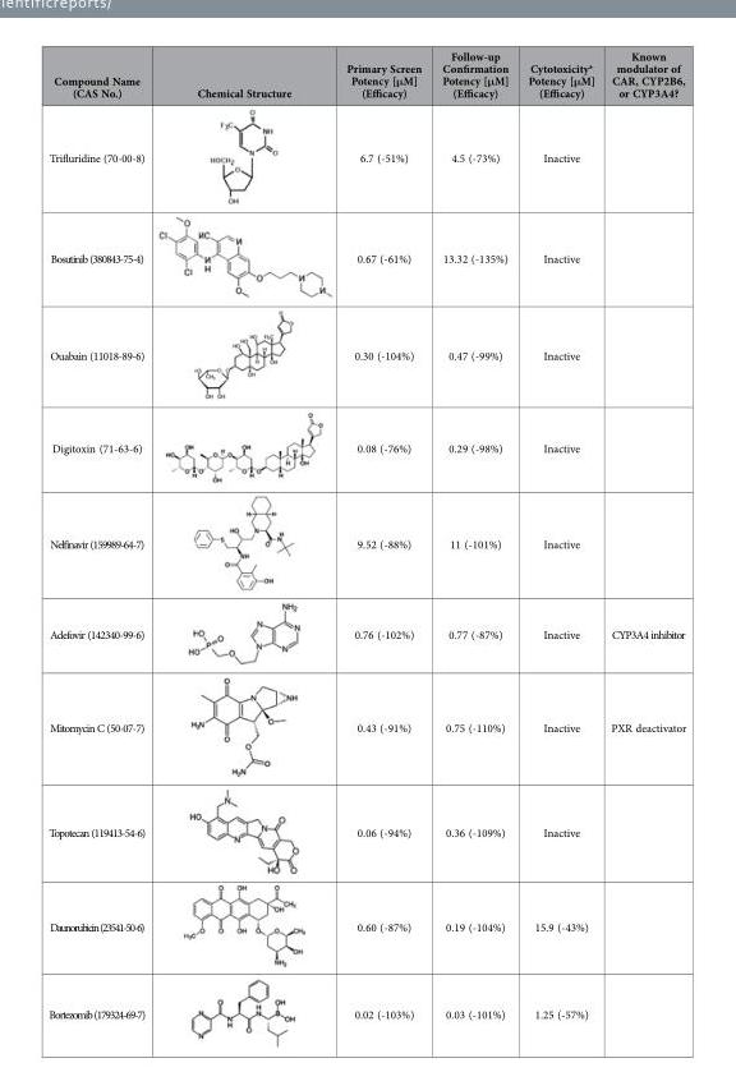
<table><thead><tr><td>Compound Name (CAS No.)</td><td>Chemical Structure</td><td>Primary Screen Potency [μM] (Efficacy)</td><td>Follow-up Confirmation Potency [μM] (Efficacy)</td><td>Cytotoxicity* Potency [μM] (Efficacy)</td><td>Known modulator of CAR, CYP2B6, or CYP3A4?</td></tr></thead><tbody><tr><td>Trifluridine (70-00-8)</td><td></td><td>6.7 (-51%)</td><td>4.5 (-73%)</td><td>Inactive</td><td></td></tr><tr><td>Bosutinib (380843-75-4)</td><td></td><td>0.67 (-61%)</td><td>13.32 (-135%)</td><td>Inactive</td><td></td></tr><tr><td>Ouabain (11018-89-6)</td><td></td><td>0.30 (-104%)</td><td>0.47 (-99%)</td><td>Inactive</td><td></td></tr><tr><td>Digitoxin (71-63-6)</td><td></td><td>0.08 (-76%)</td><td>0.29 (-98%)</td><td>Inactive</td><td></td></tr><tr><td>Nelfinavir (159989-64-7)</td><td></td><td>9.52 (-88%)</td><td>11 (-101%)</td><td>Inactive</td><td></td></tr><tr><td>Adefovir (142340-99-6)</td><td></td><td>0.76 (-102%)</td><td>0.77 (-87%)</td><td>Inactive</td><td>CYP3A4 inhibitor</td></tr><tr><td>Mitomycin C (50-07-7)</td><td></td><td>0.43 (-91%)</td><td>0.75 (-110%)</td><td>Inactive</td><td>PXR deactivator</td></tr><tr><td>Topotecan (119413-54-6)</td><td></td><td>0.06 (-94%)</td><td>0.36 (-109%)</td><td>Inactive</td><td></td></tr><tr><td>Daunorubicin (23541-50-6)</td><td></td><td>0.60 (-87%)</td><td>0.19 (-104%)</td><td>15.9 (-43%)</td><td></td></tr><tr><td>Bortezomib (179324-69-7)</td><td></td><td>0.02 (-103%)</td><td>0.03 (-101%)</td><td>1.25 (-57%)</td><td></td></tr></tbody></table>